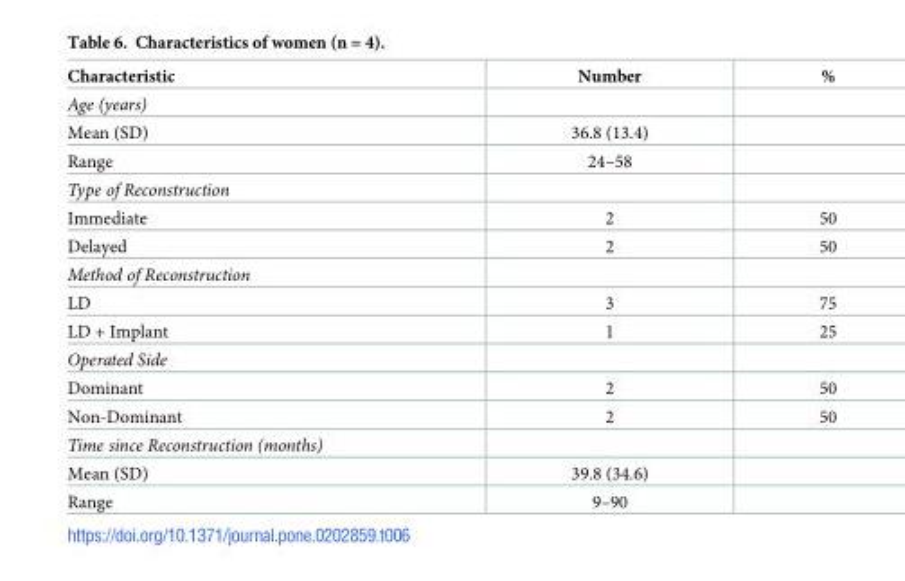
<table><thead><tr><td>Characteristic</td><td>Number</td><td>%</td></tr></thead><tbody><tr><td colspan="3">Age (years)</td></tr><tr><td>Mean (SD)</td><td>36.8 (13.4)</td><td></td></tr><tr><td>Range</td><td>24–58</td><td></td></tr><tr><td colspan="3">Type of Reconstruction</td></tr><tr><td>Immediate</td><td>2</td><td>50</td></tr><tr><td>Delayed</td><td>2</td><td>50</td></tr><tr><td colspan="3">Method of Reconstruction</td></tr><tr><td>LD</td><td>3</td><td>75</td></tr><tr><td>LD + Implant</td><td>1</td><td>25</td></tr><tr><td colspan="3">Operated Side</td></tr><tr><td>Dominant</td><td>2</td><td>50</td></tr><tr><td>Non-Dominant</td><td>2</td><td>50</td></tr><tr><td colspan="3">Time since Reconstruction (months)</td></tr><tr><td>Mean (SD)</td><td>39.8 (34.6)</td><td></td></tr><tr><td>Range</td><td>9–90</td><td></td></tr></tbody></table>